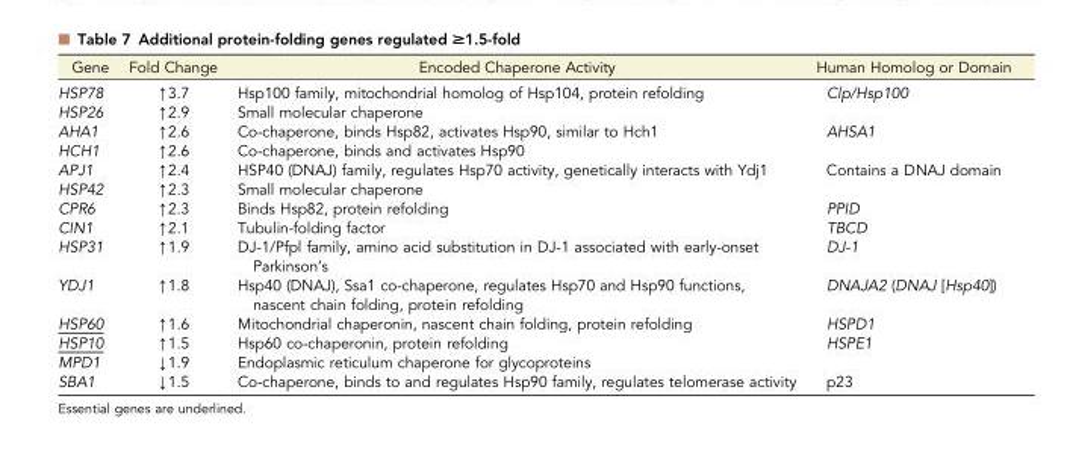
<table><thead><tr><td>Gene</td><td>Fold Change</td><td>Encoded Chaperone Activity</td><td>Human Homolog or Domain</td></tr></thead><tbody><tr><td>HSP78</td><td>↑3.7</td><td>Hsp100 family, mitochondrial homolog of Hsp104, protein refolding</td><td>Clp/Hsp100</td></tr><tr><td>HSP26</td><td>↑2.9</td><td>Small molecular chaperone</td><td></td></tr><tr><td>AHA1</td><td>↑2.6</td><td>Co-chaperone, binds Hsp82, activates Hsp90, similar to Hch1</td><td>AHSA1</td></tr><tr><td>HCH1</td><td>↑2.6</td><td>Co-chaperone, binds and activates Hsp90</td><td></td></tr><tr><td>APJ1</td><td>↑2.4</td><td>HSP40 (DNAJ) family, regulates Hsp70 activity, genetically interacts with Ydj1</td><td>Contains a DNAJ domain</td></tr><tr><td>HSP42</td><td>↑2.3</td><td>Small molecular chaperone</td><td></td></tr><tr><td>CPR6</td><td>↑2.3</td><td>Binds Hsp82, protein refolding</td><td>PPID</td></tr><tr><td>CIN1</td><td>↑2.1</td><td>Tubulin-folding factor</td><td>TBCD</td></tr><tr><td>HSP31</td><td>↑1.9</td><td>DJ-1/Pfpl family, amino acid substitution in DJ-1 associated with early-onset Parkinson’s</td><td>DJ-1</td></tr><tr><td>YDJ1</td><td>↑1.8</td><td>Hsp40 (DNAJ), Ssa1 co-chaperone, regulates Hsp70 and Hsp90 functions, nascent chain folding, protein refolding</td><td>DNAJA2 (DNAJ [Hsp40])</td></tr><tr><td>HSP60</td><td>↑1.6</td><td>Mitochondrial chaperonin, nascent chain folding, protein refolding</td><td>HSPD1</td></tr><tr><td>HSP10</td><td>↑1.5</td><td>Hsp60 co-chaperonin, protein refolding</td><td>HSPE1</td></tr><tr><td>MPD1</td><td>↓1.9</td><td>Endoplasmic reticulum chaperone for glycoproteins</td><td></td></tr><tr><td>SBA1</td><td>↓1.5</td><td>Co-chaperone, binds to and regulates Hsp90 family, regulates telomerase activity</td><td>p23</td></tr></tbody></table>